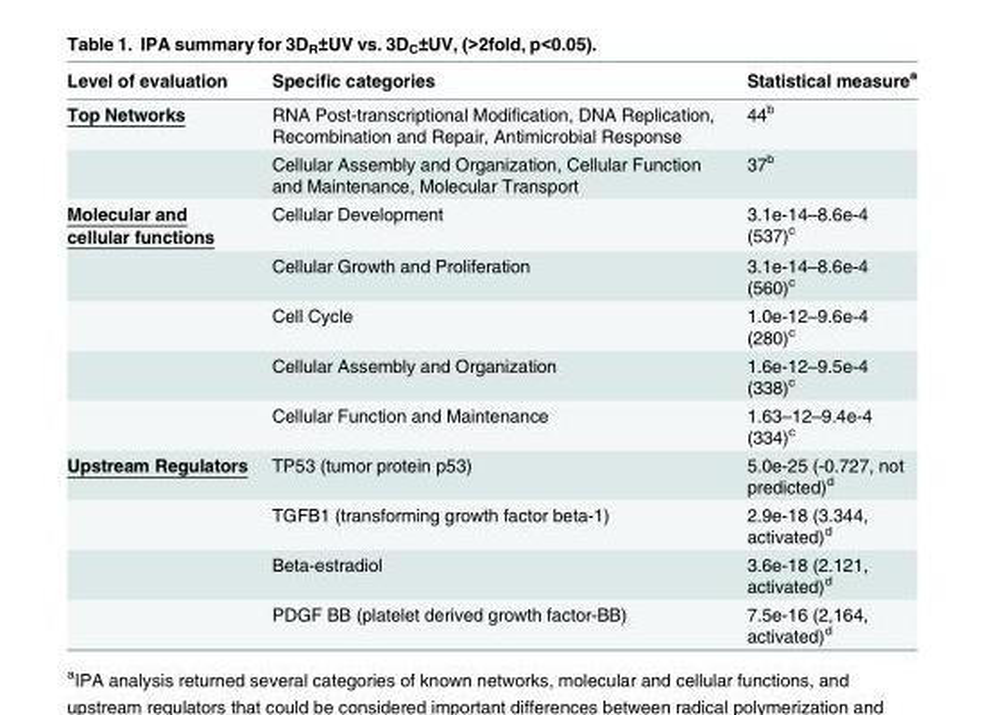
<table><thead><tr><td>Level of evaluation</td><td>Specific categories</td><td>Statistical measure<sup>a</sup></td></tr></thead><tbody><tr><td rowspan="2">Top Networks</td><td>RNA Post-transcriptional Modification, DNA Replication, Recombination and Repair, Antimicrobial Response</td><td>44<sup>b</sup></td></tr><tr><td>Cellular Assembly and Organization, Cellular Function and Maintenance, Molecular Transport</td><td>37<sup>b</sup></td></tr><tr><td rowspan="5">Molecular and cellular functions</td><td>Cellular Development</td><td>3.1e-14–8.6e-4 (537)<sup>c</sup></td></tr><tr><td>Cellular Growth and Proliferation</td><td>3.1e-14–8.6e-4 (560)<sup>c</sup></td></tr><tr><td>Cell Cycle</td><td>1.0e-12–9.6e-4 (280)<sup>c</sup></td></tr><tr><td>Cellular Assembly and Organization</td><td>1.6e-12–9.5e-4 (338)<sup>c</sup></td></tr><tr><td>Cellular Function and Maintenance</td><td>1.63–12–9.4e-4 (334)<sup>c</sup></td></tr><tr><td rowspan="4">Upstream Regulators</td><td>TP53 (tumor protein p53)</td><td>5.0e-25 (-0.727, not predicted)<sup>d</sup></td></tr><tr><td>TGFB1 (transforming growth factor beta-1)</td><td>2.9e-18 (3.344, activated)<sup>d</sup></td></tr><tr><td>Beta-estradiol</td><td>3.6e-18 (2.121, activated)<sup>d</sup></td></tr><tr><td>PDGF BB (platelet derived growth factor-BB)</td><td>7.5e-16 (2,164, activated)<sup>d</sup></td></tr></tbody></table>